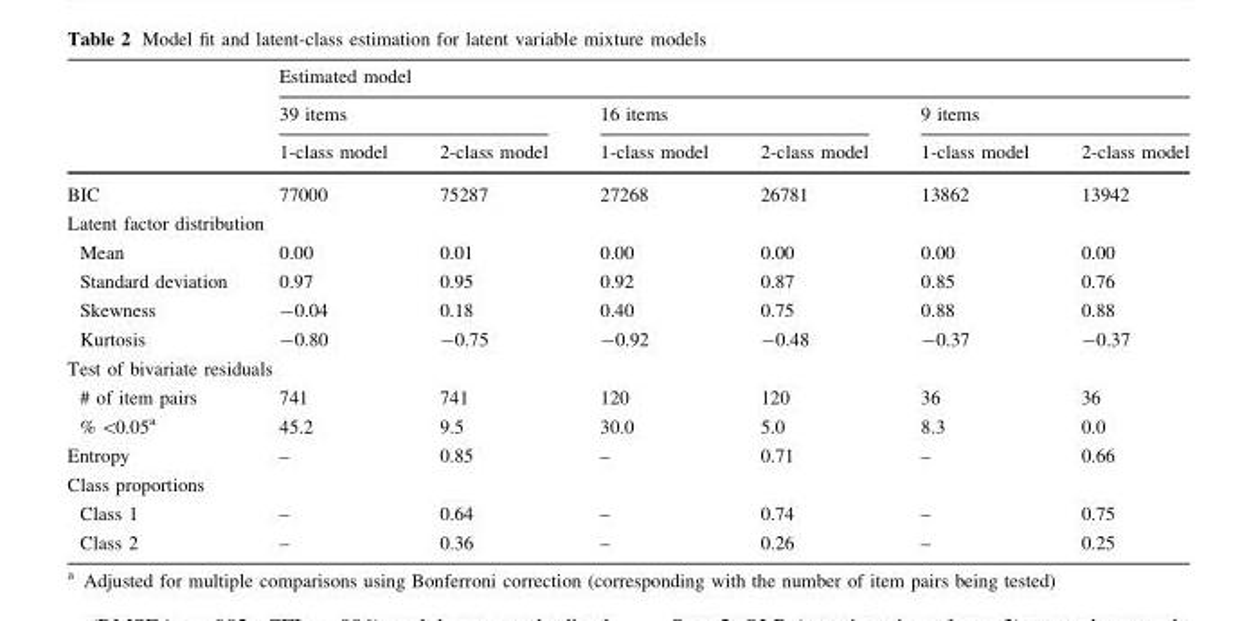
<table><thead><tr><td rowspan="3"></td><td colspan="6">Estimated model</td></tr><tr><td colspan="2">39 items</td><td colspan="2">16 items</td><td colspan="2">9 items</td></tr><tr><td>1-class model</td><td>2-class model</td><td>1-class model</td><td>2-class model</td><td>1-class model</td><td>2-class model</td></tr></thead><tbody><tr><td>BIC</td><td>77000</td><td>75287</td><td>27268</td><td>26781</td><td>13862</td><td>13942</td></tr><tr><td colspan="7">Latent factor distribution</td></tr><tr><td>Mean</td><td>0.00</td><td>0.01</td><td>0.00</td><td>0.00</td><td>0.00</td><td>0.00</td></tr><tr><td>Standard deviation</td><td>0.97</td><td>0.95</td><td>0.92</td><td>0.87</td><td>0.85</td><td>0.76</td></tr><tr><td>Skewness</td><td>-0.04</td><td>0.18</td><td>0.40</td><td>0.75</td><td>0.88</td><td>0.88</td></tr><tr><td>Kurtosis</td><td>-0.80</td><td>-0.75</td><td>-0.92</td><td>-0.48</td><td>-0.37</td><td>-0.37</td></tr><tr><td colspan="7">Test of bivariate residuals</td></tr><tr><td># of item pairs</td><td>741</td><td>741</td><td>120</td><td>120</td><td>36</td><td>36</td></tr><tr><td>% &lt;0.05<sup>a</sup></td><td>45.2</td><td>9.5</td><td>30.0</td><td>5.0</td><td>8.3</td><td>0.0</td></tr><tr><td>Entropy</td><td>–</td><td>0.85</td><td>–</td><td>0.71</td><td>–</td><td>0.66</td></tr><tr><td colspan="7">Class proportions</td></tr><tr><td>Class 1</td><td>–</td><td>0.64</td><td>–</td><td>0.74</td><td>–</td><td>0.75</td></tr><tr><td>Class 2</td><td>–</td><td>0.36</td><td>–</td><td>0.26</td><td>–</td><td>0.25</td></tr></tbody></table>